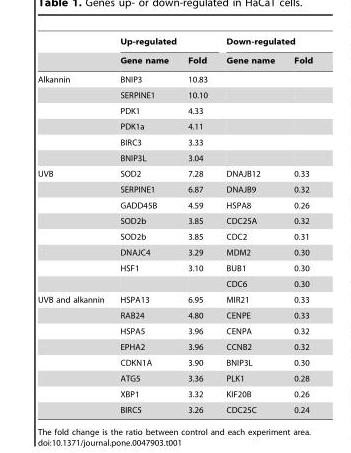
<table><thead><tr><td rowspan="2"></td><td colspan="2">Up-regulated</td><td colspan="2">Down-regulated</td></tr><tr><td>Gene name</td><td>Fold</td><td>Gene name</td><td>Fold</td></tr></thead><tbody><tr><td rowspan="6">Alkannin</td><td>BNIP3</td><td>10.83</td><td></td><td></td></tr><tr><td>SERPINE1</td><td>10.10</td><td></td><td></td></tr><tr><td>PDK1</td><td>4.33</td><td></td><td></td></tr><tr><td>PDK1a</td><td>4.11</td><td></td><td></td></tr><tr><td>BIRC3</td><td>3.33</td><td></td><td></td></tr><tr><td>BNIP3L</td><td>3.04</td><td></td><td></td></tr><tr><td rowspan="8">UVB</td><td>SOD2</td><td>7.28</td><td>DNAJB12</td><td>0.33</td></tr><tr><td>SERPINE1</td><td>6.87</td><td>DNAJB9</td><td>0.32</td></tr><tr><td>GADD45B</td><td>4.59</td><td>HSPA8</td><td>0.26</td></tr><tr><td>SOD2b</td><td>3.85</td><td>CDC25A</td><td>0.32</td></tr><tr><td>SOD2b</td><td>3.85</td><td>CDC2</td><td>0.31</td></tr><tr><td>DNAJC4</td><td>3.29</td><td>MDM2</td><td>0.30</td></tr><tr><td>HSF1</td><td>3.10</td><td>BUB1</td><td>0.30</td></tr><tr><td></td><td></td><td>CDC6</td><td>0.30</td></tr><tr><td rowspan="8">UVB and alkannin</td><td>HSPA13</td><td>6.95</td><td>MIR21</td><td>0.33</td></tr><tr><td>RAB24</td><td>4.80</td><td>CENPE</td><td>0.33</td></tr><tr><td>HSPA5</td><td>3.96</td><td>CENPA</td><td>0.32</td></tr><tr><td>EPHA2</td><td>3.96</td><td>CCNB2</td><td>0.32</td></tr><tr><td>CDKN1A</td><td>3.90</td><td>BNIP3L</td><td>0.30</td></tr><tr><td>ATG5</td><td>3.36</td><td>PLK1</td><td>0.28</td></tr><tr><td>XBP1</td><td>3.32</td><td>KIF20B</td><td>0.26</td></tr><tr><td>BIRC5</td><td>3.26</td><td>CDC25C</td><td>0.24</td></tr></tbody></table>